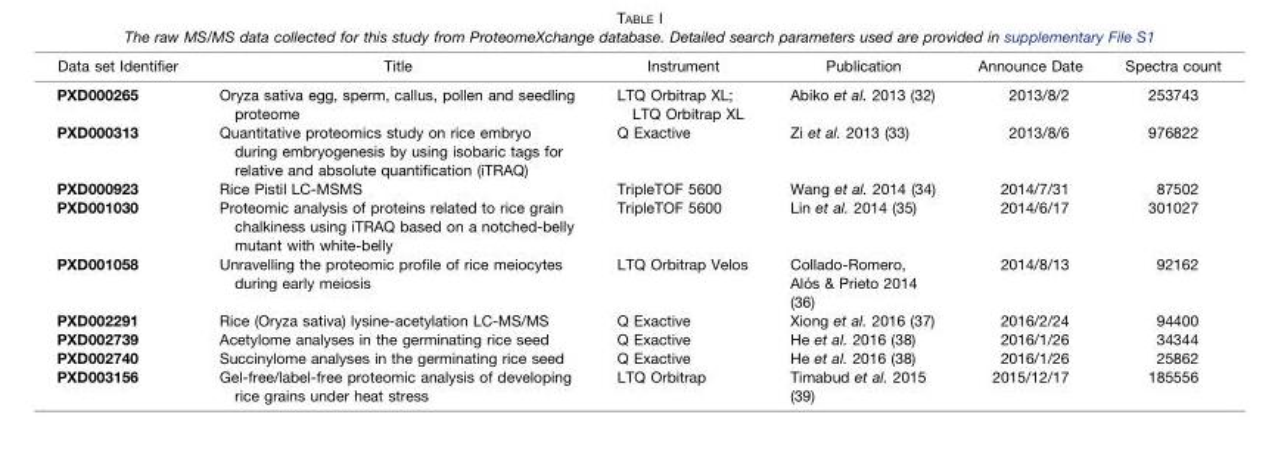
<table><thead><tr><td>Data set Identifier</td><td>Title</td><td>Instrument</td><td>Publication</td><td>Announce Date</td><td>Spectra count</td></tr></thead><tbody><tr><td>PXD000265</td><td>Oryza sativa egg, sperm, callus, pollen and seedling proteome</td><td>LTQ Orbitrap XL; LTQ Orbitrap XL</td><td>Abiko et al. 2013 (32)</td><td>2013/8/2</td><td>253743</td></tr><tr><td>PXD000313</td><td>Quantitative proteomics study on rice embryo during embryogenesis by using isobaric tags for relative and absolute quantification (iTRAQ)</td><td>Q Exactive</td><td>Zi et al. 2013 (33)</td><td>2013/8/6</td><td>976822</td></tr><tr><td>PXD000923</td><td>Rice Pistil LC-MSMS</td><td>TripleTOF 5600</td><td>Wang et al. 2014 (34)</td><td>2014/7/31</td><td>87502</td></tr><tr><td>PXD001030</td><td>Proteomic analysis of proteins related to rice grain chalkiness using iTRAQ based on a notched-belly mutant with white-belly</td><td>TripleTOF 5600</td><td>Lin et al. 2014 (35)</td><td>2014/6/17</td><td>301027</td></tr><tr><td>PXD001058</td><td>Unravelling the proteomic profile of rice meiocytes during early meiosis</td><td>LTQ Orbitrap Velos</td><td>Collado-Romero, Alós &amp; Prieto 2014 (36)</td><td>2014/8/13</td><td>92162</td></tr><tr><td>PXD002291</td><td>Rice (Oryza sativa) lysine-acetylation LC-MS/MS</td><td>Q Exactive</td><td>Xiong et al. 2016 (37)</td><td>2016/2/24</td><td>94400</td></tr><tr><td>PXD002739</td><td>Acetylome analyses in the germinating rice seed</td><td>Q Exactive</td><td>He et al. 2016 (38)</td><td>2016/1/26</td><td>34344</td></tr><tr><td>PXD002740</td><td>Succinylome analyses in the germinating rice seed</td><td>Q Exactive</td><td>He et al. 2016 (38)</td><td>2016/1/26</td><td>25862</td></tr><tr><td>PXD003156</td><td>Gel-free/label-free proteomic analysis of developing rice grains under heat stress</td><td>LTQ Orbitrap</td><td>Timabud et al. 2015 (39)</td><td>2015/12/17</td><td>185556</td></tr></tbody></table>